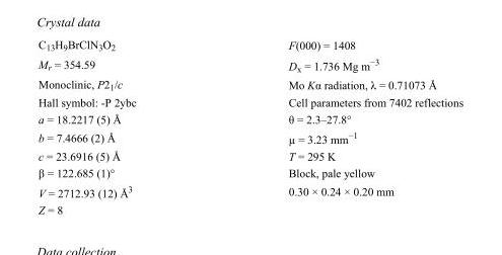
<table><tbody><tr><td>C<sub>13</sub>H<sub>9</sub>BrClN<sub>3</sub>O<sub>2</sub></td><td>F(000) = 1408</td></tr><tr><td>M<sub>r</sub> = 354.59</td><td>D<sub>x</sub> = 1.736 Mg m<sup>−3</sup></td></tr><tr><td>Monoclinic, P2<sub>1</sub>/c</td><td>Mo Kα radiation, λ = 0.71073 Å</td></tr><tr><td>Hall symbol: -P 2ybc</td><td>Cell parameters from 7402 reflections</td></tr><tr><td>a = 18.2217 (5) Å</td><td>θ = 2.3–27.8°</td></tr><tr><td>b = 7.4666 (2) Å</td><td>µ = 3.23 mm<sup>−1</sup></td></tr><tr><td>c = 23.6916 (5) Å</td><td>T = 295 K</td></tr><tr><td>β = 122.685 (1)°</td><td>Block, pale yellow</td></tr><tr><td>V = 2712.93 (12) Å<sup>3</sup></td><td>0.30 × 0.24 × 0.20 mm</td></tr><tr><td>Z = 8</td><td></td></tr></tbody></table>